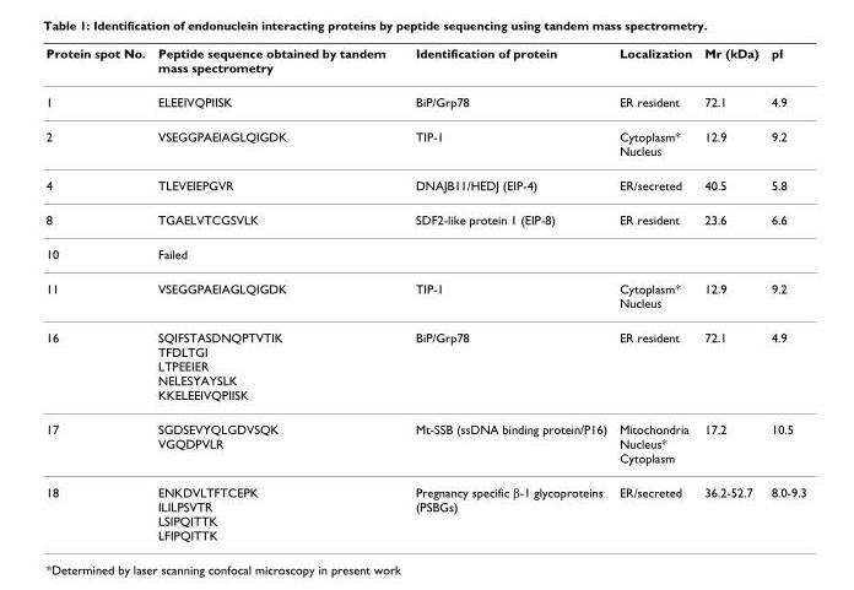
<table><thead><tr><td>Protein spot No.</td><td>Peptide sequence obtained by tandem mass spectrometry</td><td>Identification of protein</td><td>Localization</td><td>Mr (kDa)</td><td>pI</td></tr></thead><tbody><tr><td>1</td><td>ELEEIVQPIISK</td><td>BiP/Grp78</td><td>ER resident</td><td>72.1</td><td>4.9</td></tr><tr><td>2</td><td>VSEGGPAEIAGLQIGDK</td><td>TIP-1</td><td>Cytoplasm* Nucleus</td><td>12.9</td><td>9.2</td></tr><tr><td>4</td><td>TLEVEIEPGVR</td><td>DNAJB11/HEDJ (EIP-4)</td><td>ER/secreted</td><td>40.5</td><td>5.8</td></tr><tr><td>8</td><td>TGAELVTCGSVLK</td><td>SDF2-like protein 1 (EIP-8)</td><td>ER resident</td><td>23.6</td><td>6.6</td></tr><tr><td>10</td><td>Failed</td><td></td><td></td><td></td><td></td></tr><tr><td>11</td><td>VSEGGPAEIAGLQIGDK</td><td>TIP-1</td><td>Cytoplasm* Nucleus</td><td>12.9</td><td>9.2</td></tr><tr><td>16</td><td>SQIFSTASDNQPTVTIK TFDLTGI LTPEEIER NELESYAYSLK KKELEEIVQPIISK</td><td>BiP/Grp78</td><td>ER resident</td><td>72.1</td><td>4.9</td></tr><tr><td>17</td><td>SGDSEVYQLGDVSQK VGQDPVLR</td><td>Mt-SSB (ssDNA binding protein/P16)</td><td>Mitochondria Nucleus* Cytoplasm</td><td>17.2</td><td>10.5</td></tr><tr><td>18</td><td>ENKDVLTFTCEPK ILILPSVTR LSIPQITTK LFIPQITTK</td><td>Pregnancy specific β-1 glycoproteins (PSBGs)</td><td>ER/secreted</td><td>36.2-52.7</td><td>8.0-9.3</td></tr></tbody></table>